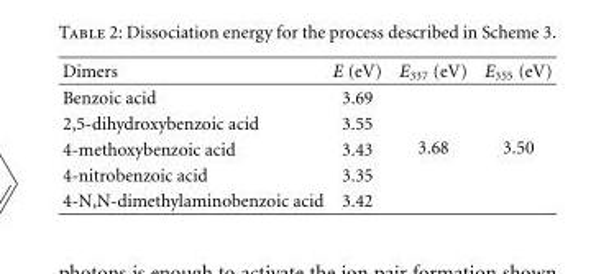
<table><thead><tr><td>Dimers</td><td>E (eV)</td><td>E<sub>337</sub> (eV)</td><td>E<sub>355</sub> (eV)</td></tr></thead><tbody><tr><td>Benzoic acid</td><td>3.69</td><td rowspan="5">3.68</td><td rowspan="5">3.50</td></tr><tr><td>2,5-dihydroxybenzoic acid</td><td>3.55</td></tr><tr><td>4-methoxybenzoic acid</td><td>3.43</td></tr><tr><td>4-nitrobenzoic acid</td><td>3.35</td></tr><tr><td>4-N,N-dimethylaminobenzoic acid</td><td>3.42</td></tr></tbody></table>